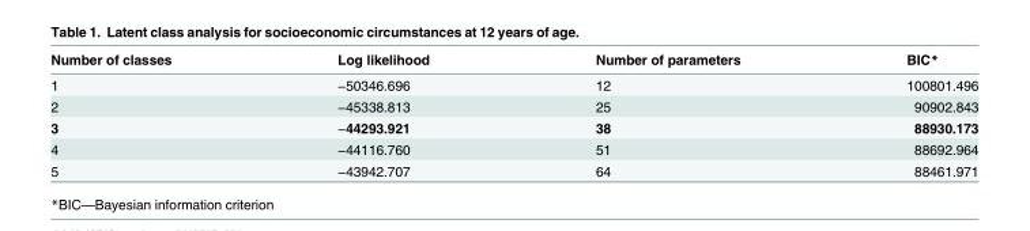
<table><thead><tr><td>Number of classes</td><td>Log likelihood</td><td>Number of parameters</td><td>BIC*</td></tr></thead><tbody><tr><td>1</td><td>−50346.696</td><td>12</td><td>100801.496</td></tr><tr><td>2</td><td>−45338.813</td><td>25</td><td>90902.843</td></tr><tr><td>3</td><td>−44293.921</td><td>38</td><td>88930.173</td></tr><tr><td>4</td><td>−44116.760</td><td>51</td><td>88692.964</td></tr><tr><td>5</td><td>−43942.707</td><td>64</td><td>88461.971</td></tr></tbody></table>